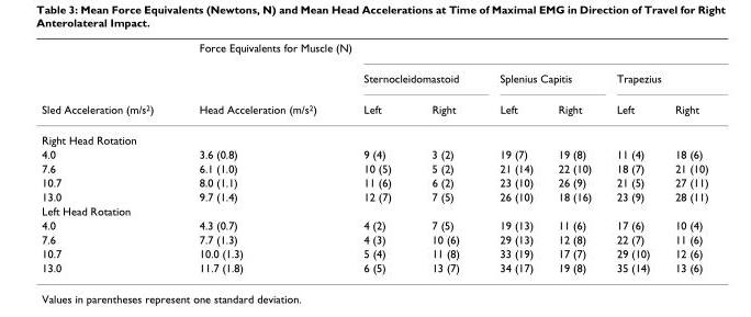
<table><thead><tr><td rowspan="3">Sled Acceleration (m/s<sup>2</sup>)</td><td colspan="7">Force Equivalents for Muscle (N)</td></tr><tr><td rowspan="2">Head Acceleration (m/s<sup>2</sup>)</td><td colspan="2">Sternocleidomastoid</td><td colspan="2">Splenius Capitis</td><td colspan="2">Trapezius</td></tr><tr><td>Left</td><td>Right</td><td>Left</td><td>Right</td><td>Left</td><td>Right</td></tr></thead><tbody><tr><td colspan="8">Right Head Rotation</td></tr><tr><td>4.0</td><td>3.6 (0.8)</td><td>9 (4)</td><td>3 (2)</td><td>19 (7)</td><td>19 (8)</td><td>11 (4)</td><td>18 (6)</td></tr><tr><td>7.6</td><td>6.1 (1.0)</td><td>10 (5)</td><td>5 (2)</td><td>21 (14)</td><td>22 (10)</td><td>18 (7)</td><td>21 (10)</td></tr><tr><td>10.7</td><td>8.0 (1.1)</td><td>11 (6)</td><td>6 (2)</td><td>23 (10)</td><td>26 (9)</td><td>21 (5)</td><td>27 (11)</td></tr><tr><td>13.0</td><td>9.7 (1.4)</td><td>12 (7)</td><td>7 (5)</td><td>26 (10)</td><td>18 (16)</td><td>23 (9)</td><td>28 (11)</td></tr><tr><td colspan="8">Left Head Rotation</td></tr><tr><td>4.0</td><td>4.3 (0.7)</td><td>4 (2)</td><td>7 (5)</td><td>19 (13)</td><td>11 (6)</td><td>17 (6)</td><td>10 (4)</td></tr><tr><td>7.6</td><td>7.7 (1.3)</td><td>4 (3)</td><td>10 (6)</td><td>29 (13)</td><td>12 (8)</td><td>22 (7)</td><td>11 (6)</td></tr><tr><td>10.7</td><td>10.0 (1.3)</td><td>5 (4)</td><td>11 (8)</td><td>33 (19)</td><td>17 (7)</td><td>29 (10)</td><td>12 (6)</td></tr><tr><td>13.0</td><td>11.7 (1.8)</td><td>6 (5)</td><td>13 (7)</td><td>34 (17)</td><td>19 (8)</td><td>35 (14)</td><td>13 (6)</td></tr></tbody></table>